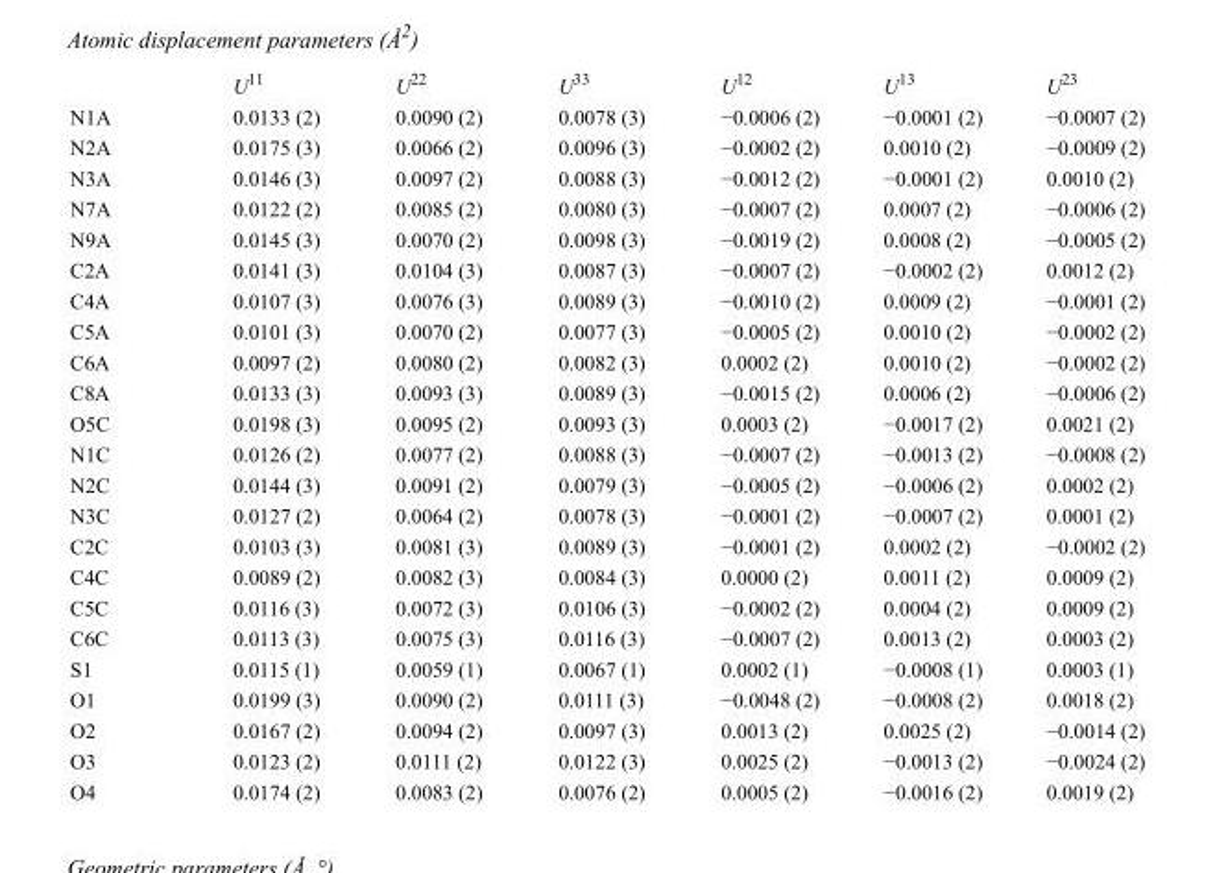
<table><thead><tr><td></td><td>U<sup>11</sup></td><td>U<sup>22</sup></td><td>U<sup>33</sup></td><td>U<sup>12</sup></td><td>U<sup>13</sup></td><td>U<sup>23</sup></td></tr></thead><tbody><tr><td>N1A</td><td>0.0133 (2)</td><td>0.0090 (2)</td><td>0.0078 (3)</td><td>−0.0006 (2)</td><td>−0.0001 (2)</td><td>−0.0007 (2)</td></tr><tr><td>N2A</td><td>0.0175 (3)</td><td>0.0066 (2)</td><td>0.0096 (3)</td><td>−0.0002 (2)</td><td>0.0010 (2)</td><td>−0.0009 (2)</td></tr><tr><td>N3A</td><td>0.0146 (3)</td><td>0.0097 (2)</td><td>0.0088 (3)</td><td>−0.0012 (2)</td><td>−0.0001 (2)</td><td>0.0010 (2)</td></tr><tr><td>N7A</td><td>0.0122 (2)</td><td>0.0085 (2)</td><td>0.0080 (3)</td><td>−0.0007 (2)</td><td>0.0007 (2)</td><td>−0.0006 (2)</td></tr><tr><td>N9A</td><td>0.0145 (3)</td><td>0.0070 (2)</td><td>0.0098 (3)</td><td>−0.0019 (2)</td><td>0.0008 (2)</td><td>−0.0005 (2)</td></tr><tr><td>C2A</td><td>0.0141 (3)</td><td>0.0104 (3)</td><td>0.0087 (3)</td><td>−0.0007 (2)</td><td>−0.0002 (2)</td><td>0.0012 (2)</td></tr><tr><td>C4A</td><td>0.0107 (3)</td><td>0.0076 (3)</td><td>0.0089 (3)</td><td>−0.0010 (2)</td><td>0.0009 (2)</td><td>−0.0001 (2)</td></tr><tr><td>C5A</td><td>0.0101 (3)</td><td>0.0070 (2)</td><td>0.0077 (3)</td><td>−0.0005 (2)</td><td>0.0010 (2)</td><td>−0.0002 (2)</td></tr><tr><td>C6A</td><td>0.0097 (2)</td><td>0.0080 (2)</td><td>0.0082 (3)</td><td>0.0002 (2)</td><td>0.0010 (2)</td><td>−0.0002 (2)</td></tr><tr><td>C8A</td><td>0.0133 (3)</td><td>0.0093 (3)</td><td>0.0089 (3)</td><td>−0.0015 (2)</td><td>0.0006 (2)</td><td>−0.0006 (2)</td></tr><tr><td>O5C</td><td>0.0198 (3)</td><td>0.0095 (2)</td><td>0.0093 (3)</td><td>0.0003 (2)</td><td>−0.0017 (2)</td><td>0.0021 (2)</td></tr><tr><td>N1C</td><td>0.0126 (2)</td><td>0.0077 (2)</td><td>0.0088 (3)</td><td>−0.0007 (2)</td><td>−0.0013 (2)</td><td>−0.0008 (2)</td></tr><tr><td>N2C</td><td>0.0144 (3)</td><td>0.0091 (2)</td><td>0.0079 (3)</td><td>−0.0005 (2)</td><td>−0.0006 (2)</td><td>0.0002 (2)</td></tr><tr><td>N3C</td><td>0.0127 (2)</td><td>0.0064 (2)</td><td>0.0078 (3)</td><td>−0.0001 (2)</td><td>−0.0007 (2)</td><td>0.0001 (2)</td></tr><tr><td>C2C</td><td>0.0103 (3)</td><td>0.0081 (3)</td><td>0.0089 (3)</td><td>−0.0001 (2)</td><td>0.0002 (2)</td><td>−0.0002 (2)</td></tr><tr><td>C4C</td><td>0.0089 (2)</td><td>0.0082 (3)</td><td>0.0084 (3)</td><td>0.0000 (2)</td><td>0.0011 (2)</td><td>0.0009 (2)</td></tr><tr><td>C5C</td><td>0.0116 (3)</td><td>0.0072 (3)</td><td>0.0106 (3)</td><td>−0.0002 (2)</td><td>0.0004 (2)</td><td>0.0009 (2)</td></tr><tr><td>C6C</td><td>0.0113 (3)</td><td>0.0075 (3)</td><td>0.0116 (3)</td><td>−0.0007 (2)</td><td>0.0013 (2)</td><td>0.0003 (2)</td></tr><tr><td>S1</td><td>0.0115 (1)</td><td>0.0059 (1)</td><td>0.0067 (1)</td><td>0.0002 (1)</td><td>−0.0008 (1)</td><td>0.0003 (1)</td></tr><tr><td>O1</td><td>0.0199 (3)</td><td>0.0090 (2)</td><td>0.0111 (3)</td><td>−0.0048 (2)</td><td>−0.0008 (2)</td><td>0.0018 (2)</td></tr><tr><td>O2</td><td>0.0167 (2)</td><td>0.0094 (2)</td><td>0.0097 (3)</td><td>0.0013 (2)</td><td>0.0025 (2)</td><td>−0.0014 (2)</td></tr><tr><td>O3</td><td>0.0123 (2)</td><td>0.0111 (2)</td><td>0.0122 (3)</td><td>0.0025 (2)</td><td>−0.0013 (2)</td><td>−0.0024 (2)</td></tr><tr><td>O4</td><td>0.0174 (2)</td><td>0.0083 (2)</td><td>0.0076 (2)</td><td>0.0005 (2)</td><td>−0.0016 (2)</td><td>0.0019 (2)</td></tr></tbody></table>